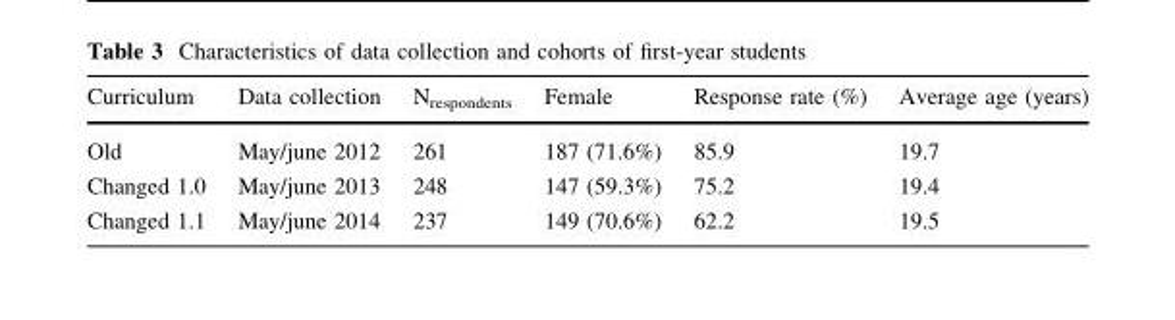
<table><thead><tr><td>Curriculum</td><td>Data collection</td><td>N<sub>respondents</sub></td><td>Female</td><td>Response rate (%)</td><td>Average age (years)</td></tr></thead><tbody><tr><td>Old</td><td>May/june 2012</td><td>261</td><td>187 (71.6%)</td><td>85.9</td><td>19.7</td></tr><tr><td>Changed 1.0</td><td>May/june 2013</td><td>248</td><td>147 (59.3%)</td><td>75.2</td><td>19.4</td></tr><tr><td>Changed 1.1</td><td>May/june 2014</td><td>237</td><td>149 (70.6%)</td><td>62.2</td><td>19.5</td></tr></tbody></table>